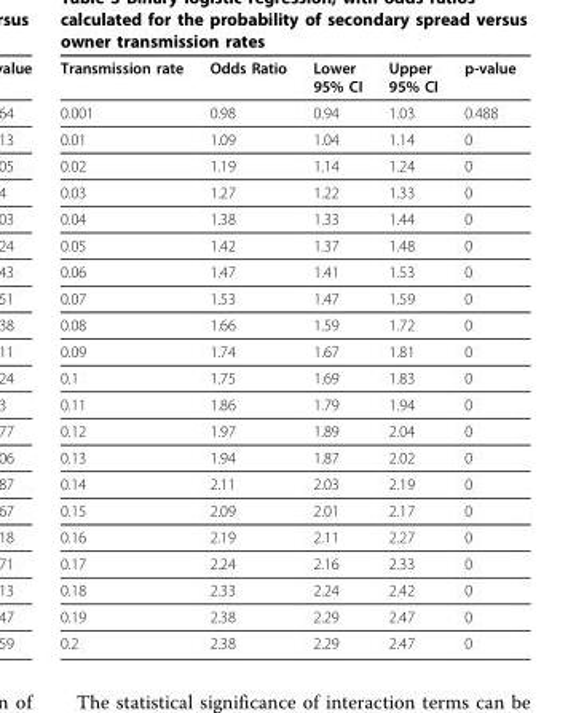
<table><thead><tr><td>Transmission rate</td><td>Odds Ratio</td><td>Lower 95% CI</td><td>Upper 95% CI</td><td>p-value</td></tr></thead><tbody><tr><td>0.001</td><td>0.98</td><td>0.94</td><td>1.03</td><td>0.488</td></tr><tr><td>0.01</td><td>1.09</td><td>1.04</td><td>1.14</td><td>0</td></tr><tr><td>0.02</td><td>1.19</td><td>1.14</td><td>1.24</td><td>0</td></tr><tr><td>0.03</td><td>1.27</td><td>1.22</td><td>1.33</td><td>0</td></tr><tr><td>0.04</td><td>1.38</td><td>1.33</td><td>1.44</td><td>0</td></tr><tr><td>0.05</td><td>1.42</td><td>1.37</td><td>1.48</td><td>0</td></tr><tr><td>0.06</td><td>1.47</td><td>1.41</td><td>1.53</td><td>0</td></tr><tr><td>0.07</td><td>1.53</td><td>1.47</td><td>1.59</td><td>0</td></tr><tr><td>0.08</td><td>1.66</td><td>1.59</td><td>1.72</td><td>0</td></tr><tr><td>0.09</td><td>1.74</td><td>1.67</td><td>1.81</td><td>0</td></tr><tr><td>0.1</td><td>1.75</td><td>1.69</td><td>1.83</td><td>0</td></tr><tr><td>0.11</td><td>1.86</td><td>1.79</td><td>1.94</td><td>0</td></tr><tr><td>0.12</td><td>1.97</td><td>1.89</td><td>2.04</td><td>0</td></tr><tr><td>0.13</td><td>1.94</td><td>1.87</td><td>2.02</td><td>0</td></tr><tr><td>0.14</td><td>2.11</td><td>2.03</td><td>2.19</td><td>0</td></tr><tr><td>0.15</td><td>2.09</td><td>2.01</td><td>2.17</td><td>0</td></tr><tr><td>0.16</td><td>2.19</td><td>2.11</td><td>2.27</td><td>0</td></tr><tr><td>0.17</td><td>2.24</td><td>2.16</td><td>2.33</td><td>0</td></tr><tr><td>0.18</td><td>2.33</td><td>2.24</td><td>2.42</td><td>0</td></tr><tr><td>0.19</td><td>2.38</td><td>2.29</td><td>2.47</td><td>0</td></tr><tr><td>0.2</td><td>2.38</td><td>2.29</td><td>2.47</td><td>0</td></tr></tbody></table>